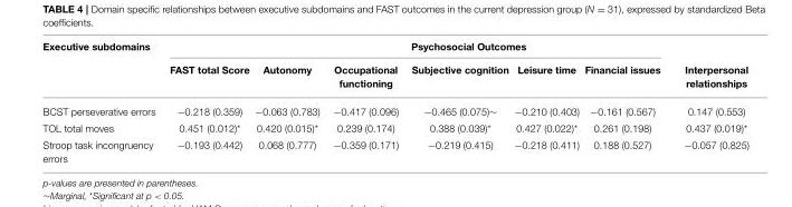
<table><thead><tr><td rowspan="2">Executive subdomains</td><td colspan="7">Psychosocial Outcomes</td></tr><tr><td>FAST total Score</td><td>Autonomy</td><td>Occupational functioning</td><td>Subjective cognition</td><td>Leisure time</td><td>Financial issues</td><td>Interpersonal relationships</td></tr></thead><tbody><tr><td>BCST perseverative errors</td><td>−0.218 (0.359)</td><td>−0.063 (0.783)</td><td>−0.417 (0.096)</td><td>−0.465 (0.075)∼</td><td>−0.210 (0.403)</td><td>−0.161 (0.567)</td><td>0.147 (0.553)</td></tr><tr><td>TOL total moves</td><td>0.451 (0.012)*</td><td>0.420 (0.015)*</td><td>0.239 (0.174)</td><td>0.388 (0.039)*</td><td>0.427 (0.022)*</td><td>0.261 (0.198)</td><td>0.437 (0.019)*</td></tr><tr><td>Stroop task incongruency errors</td><td>−0.193 (0.442)</td><td>0.068 (0.777)</td><td>−0.359 (0.171)</td><td>−0.219 (0.415)</td><td>−0.218 (0.411)</td><td>0.188 (0.527)</td><td>−0.057 (0.825)</td></tr></tbody></table>